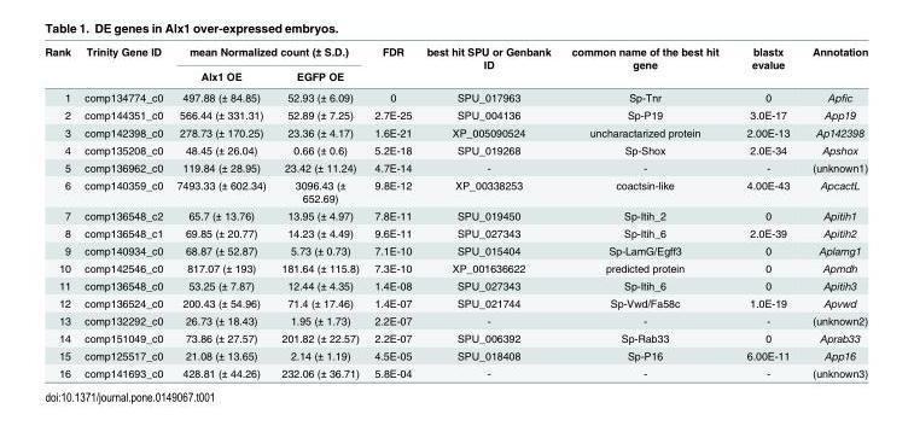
<table><thead><tr><td rowspan="2">Rank</td><td rowspan="2">Trinity Gene ID</td><td colspan="2">mean Normalized count (± S.D.)</td><td rowspan="2">FDR</td><td rowspan="2">best hit SPU or Genbank ID</td><td rowspan="2">common name of the best hit gene</td><td rowspan="2">blastx evalue</td><td rowspan="2">Annotation</td></tr><tr><td>Alx1 OE</td><td>EGFP OE</td></tr></thead><tbody><tr><td>1</td><td>comp134774_c0</td><td>497.88 (± 84.85)</td><td>52.93 (± 6.09)</td><td>0</td><td>SPU_017963</td><td>Sp-Tnr</td><td>0</td><td>Apfic</td></tr><tr><td>2</td><td>comp144351_c0</td><td>566.44 (± 331.31)</td><td>52.89 (± 7.25)</td><td>2.7E-25</td><td>SPU_004136</td><td>Sp-P19</td><td>3.0E-17</td><td>App19</td></tr><tr><td>3</td><td>comp142398_c0</td><td>278.73 (± 170.25)</td><td>23.36 (± 4.17)</td><td>1.6E-21</td><td>XP_005090524</td><td>uncharactarized protein</td><td>2.00E-13</td><td>Ap142398</td></tr><tr><td>4</td><td>comp135208_c0</td><td>48.45 (± 26.04)</td><td>0.66 (± 0.6)</td><td>5.2E-18</td><td>SPU_019268</td><td>Sp-Shox</td><td>2.0E-34</td><td>Apshox</td></tr><tr><td>5</td><td>comp136962_c0</td><td>119.84 (± 28.95)</td><td>23.42 (± 11.24)</td><td>4.7E-14</td><td>-</td><td>-</td><td>-</td><td>(unknown1)</td></tr><tr><td>6</td><td>comp140359_c0</td><td>7493.33 (± 602.34)</td><td>3096.43 (± 652.69)</td><td>9.8E-12</td><td>XP_00338253</td><td>coactsin-like</td><td>4.00E-43</td><td>ApcactL</td></tr><tr><td>7</td><td>comp136548_c2</td><td>65.7 (± 13.76)</td><td>13.95 (± 4.97)</td><td>7.8E-11</td><td>SPU_019450</td><td>Sp-Itih_2</td><td>0</td><td>Apitih1</td></tr><tr><td>8</td><td>comp136548_c1</td><td>69.85 (± 20.77)</td><td>14.23 (± 4.49)</td><td>9.6E-11</td><td>SPU_027343</td><td>Sp-Itih_6</td><td>2.0E-39</td><td>Apitih2</td></tr><tr><td>9</td><td>comp140934_c0</td><td>68.87 (± 52.87)</td><td>5.73 (± 0.73)</td><td>7.1E-10</td><td>SPU_015404</td><td>Sp-LamG/Egff3</td><td>0</td><td>Aplamg1</td></tr><tr><td>10</td><td>comp142546_c0</td><td>817.07 (± 193)</td><td>181.64 (± 115.8)</td><td>7.3E-10</td><td>XP_001636622</td><td>predicted protein</td><td>0</td><td>Apmdh</td></tr><tr><td>11</td><td>comp136548_c0</td><td>53.25 (± 7.87)</td><td>12.44 (± 4.35)</td><td>1.4E-08</td><td>SPU_027343</td><td>Sp-Itih_6</td><td>0</td><td>Apitih3</td></tr><tr><td>12</td><td>comp136524_c0</td><td>200.43 (± 54.96)</td><td>71.4 (± 17.46)</td><td>1.4E-07</td><td>SPU_021744</td><td>Sp-Vwd/Fa58c</td><td>1.0E-19</td><td>Apvwd</td></tr><tr><td>13</td><td>comp132292_c0</td><td>26.73 (± 18.43)</td><td>1.95 (± 1.73)</td><td>2.2E-07</td><td>-</td><td>-</td><td>-</td><td>(unknown2)</td></tr><tr><td>14</td><td>comp151049_c0</td><td>73.86 (± 27.57)</td><td>201.82 (± 22.57)</td><td>2.2E-07</td><td>SPU_006392</td><td>Sp-Rab33</td><td>0</td><td>Aprab33</td></tr><tr><td>15</td><td>comp125517_c0</td><td>21.08 (± 13.65)</td><td>2.14 (± 1.19)</td><td>4.5E-05</td><td>SPU_018408</td><td>Sp-P16</td><td>6.00E-11</td><td>App16</td></tr><tr><td>16</td><td>comp141693_c0</td><td>428.81 (± 44.26)</td><td>232.06 (± 36.71)</td><td>5.8E-04</td><td>-</td><td>-</td><td>-</td><td>(unknown3)</td></tr></tbody></table>